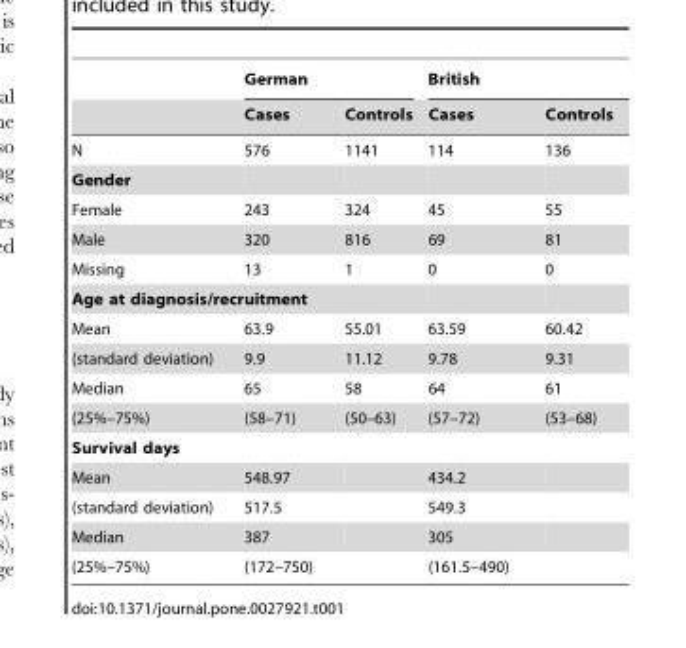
<table><thead><tr><td rowspan="2"></td><td colspan="2">German</td><td colspan="2">British</td></tr><tr><td>Cases</td><td>Controls</td><td>Cases</td><td>Controls</td></tr></thead><tbody><tr><td>N</td><td>576</td><td>1141</td><td>114</td><td>136</td></tr><tr><td colspan="5">Gender</td></tr><tr><td>Female</td><td>243</td><td>324</td><td>45</td><td>55</td></tr><tr><td>Male</td><td>320</td><td>816</td><td>69</td><td>81</td></tr><tr><td>Missing</td><td>13</td><td>1</td><td>0</td><td>0</td></tr><tr><td colspan="5">Age at diagnosis/recruitment</td></tr><tr><td>Mean</td><td>63.9</td><td>55.01</td><td>63.59</td><td>60.42</td></tr><tr><td>(standard deviation)</td><td>9.9</td><td>11.12</td><td>9.78</td><td>9.31</td></tr><tr><td>Median</td><td>65</td><td>58</td><td>64</td><td>61</td></tr><tr><td>(25%–75%)</td><td>(58–71)</td><td>(50–63)</td><td>(57–72)</td><td>(53–68)</td></tr><tr><td colspan="5">Survival days</td></tr><tr><td>Mean</td><td>548.97</td><td></td><td>434.2</td><td></td></tr><tr><td>(standard deviation)</td><td>517.5</td><td></td><td>549.3</td><td></td></tr><tr><td>Median</td><td>387</td><td></td><td>305</td><td></td></tr><tr><td>(25%–75%)</td><td>(172–750)</td><td></td><td>(161.5–490)</td><td></td></tr></tbody></table>